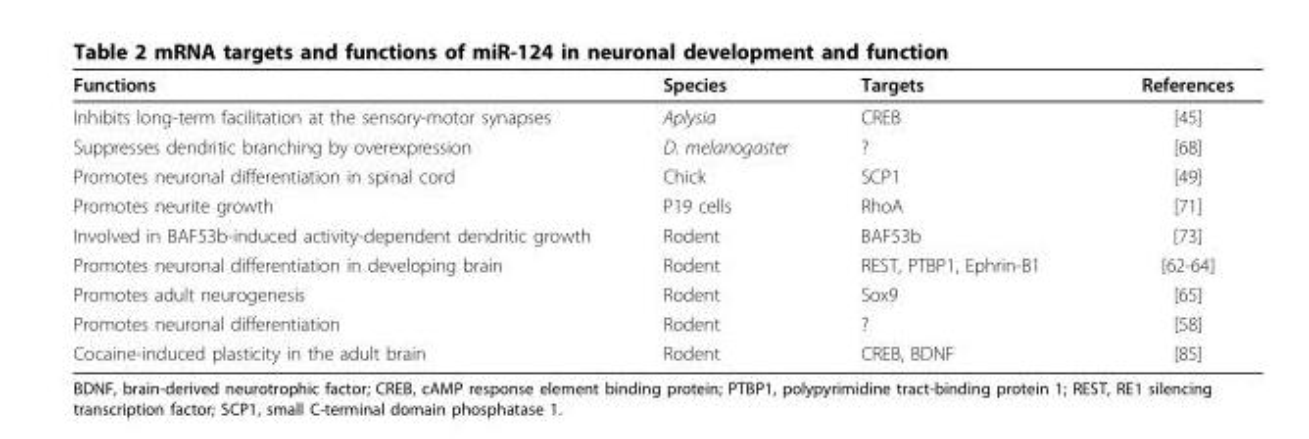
<table><thead><tr><td>Functions</td><td>Species</td><td>Targets</td><td>References</td></tr></thead><tbody><tr><td>Inhibits long-term facilitation at the sensory-motor synapses</td><td>Aplysia</td><td>CREB</td><td>[45]</td></tr><tr><td>Suppresses dendritic branching by overexpression</td><td>D. melanogaster</td><td>?</td><td>[68]</td></tr><tr><td>Promotes neuronal differentiation in spinal cord</td><td>Chick</td><td>SCP1</td><td>[49]</td></tr><tr><td>Promotes neurite growth</td><td>P19 cells</td><td>RhoA</td><td>[71]</td></tr><tr><td>Involved in BAF53b-induced activity-dependent dendritic growth</td><td>Rodent</td><td>BAF53b</td><td>[73]</td></tr><tr><td>Promotes neuronal differentiation in developing brain</td><td>Rodent</td><td>REST, PTBP1, Ephrin-B1</td><td>[62-64]</td></tr><tr><td>Promotes adult neurogenesis</td><td>Rodent</td><td>Sox9</td><td>[65]</td></tr><tr><td>Promotes neuronal differentiation</td><td>Rodent</td><td>?</td><td>[58]</td></tr><tr><td>Cocaine-induced plasticity in the adult brain</td><td>Rodent</td><td>CREB, BDNF</td><td>[85]</td></tr></tbody></table>